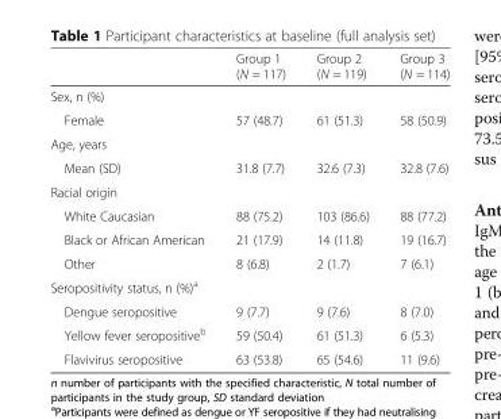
<table><thead><tr><td></td><td>Group 1 (N = 117)</td><td>Group 2 (N = 119)</td><td>Group 3 (N = 114)</td></tr></thead><tbody><tr><td colspan="4">Sex, n (%)</td></tr><tr><td>Female</td><td>57 (48.7)</td><td>61 (51.3)</td><td>58 (50.9)</td></tr><tr><td colspan="4">Age, years</td></tr><tr><td>Mean (SD)</td><td>31.8 (7.7)</td><td>32.6 (7.3)</td><td>32.8 (7.6)</td></tr><tr><td colspan="4">Racial origin</td></tr><tr><td>White Caucasian</td><td>88 (75.2)</td><td>103 (86.6)</td><td>88 (77.2)</td></tr><tr><td>Black or African American</td><td>21 (17.9)</td><td>14 (11.8)</td><td>19 (16.7)</td></tr><tr><td>Other</td><td>8 (6.8)</td><td>2 (1.7)</td><td>7 (6.1)</td></tr><tr><td colspan="4">Seropositivity status, n (%)<sup>a</sup></td></tr><tr><td>Dengue seropositive</td><td>9 (7.7)</td><td>9 (7.6)</td><td>8 (7.0)</td></tr><tr><td>Yellow fever seropositive<sup>b</sup></td><td>59 (50.4)</td><td>61 (51.3)</td><td>6 (5.3)</td></tr><tr><td>Flavivirus seropositive</td><td>63 (53.8)</td><td>65 (54.6)</td><td>11 (9.6)</td></tr></tbody></table>